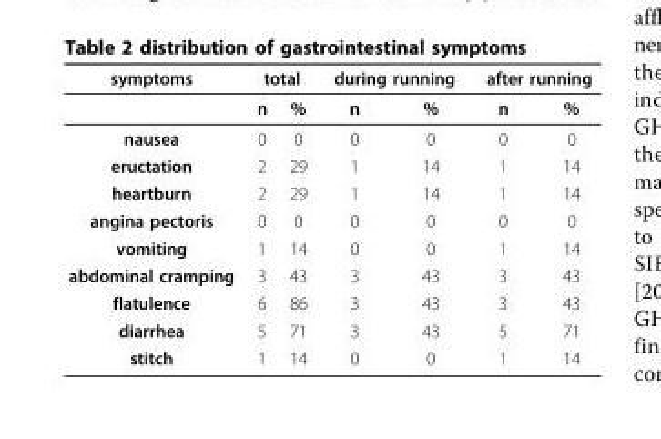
<table><thead><tr><td rowspan="2">symptoms</td><td colspan="2">total</td><td colspan="2">during running</td><td colspan="2">after running</td></tr><tr><td>n</td><td>%</td><td>n</td><td>%</td><td>n</td><td>%</td></tr></thead><tbody><tr><td>nausea</td><td>0</td><td>0</td><td>0</td><td>0</td><td>0</td><td>0</td></tr><tr><td>eructation</td><td>2</td><td>29</td><td>1</td><td>14</td><td>1</td><td>14</td></tr><tr><td>heartburn</td><td>2</td><td>29</td><td>1</td><td>14</td><td>1</td><td>14</td></tr><tr><td>angina pectoris</td><td>0</td><td>0</td><td>0</td><td>0</td><td>0</td><td>0</td></tr><tr><td>vomiting</td><td>1</td><td>14</td><td>0</td><td>0</td><td>1</td><td>14</td></tr><tr><td>abdominal cramping</td><td>3</td><td>43</td><td>3</td><td>43</td><td>3</td><td>43</td></tr><tr><td>flatulence</td><td>6</td><td>86</td><td>3</td><td>43</td><td>3</td><td>43</td></tr><tr><td>diarrhea</td><td>5</td><td>71</td><td>3</td><td>43</td><td>5</td><td>71</td></tr><tr><td>stitch</td><td>1</td><td>14</td><td>0</td><td>0</td><td>1</td><td>14</td></tr></tbody></table>